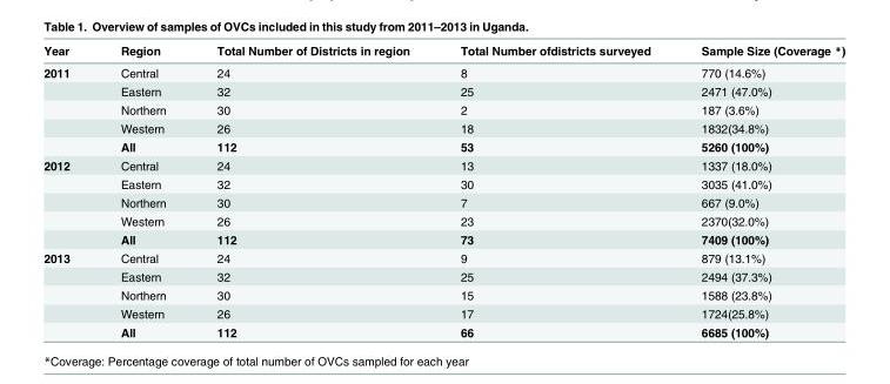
<table><thead><tr><td>Year</td><td>Region</td><td>Total Number of Districts in region</td><td>Total Number ofdistricts surveyed</td><td>Sample Size (Coverage *)</td></tr></thead><tbody><tr><td rowspan="5">2011</td><td>Central</td><td>24</td><td>8</td><td>770 (14.6%)</td></tr><tr><td>Eastern</td><td>32</td><td>25</td><td>2471 (47.0%)</td></tr><tr><td>Northern</td><td>30</td><td>2</td><td>187 (3.6%)</td></tr><tr><td>Western</td><td>26</td><td>18</td><td>1832(34.8%)</td></tr><tr><td>All</td><td>112</td><td>53</td><td>5260 (100%)</td></tr><tr><td rowspan="5">2012</td><td>Central</td><td>24</td><td>13</td><td>1337 (18.0%)</td></tr><tr><td>Eastern</td><td>32</td><td>30</td><td>3035 (41.0%)</td></tr><tr><td>Northern</td><td>30</td><td>7</td><td>667 (9.0%)</td></tr><tr><td>Western</td><td>26</td><td>23</td><td>2370(32.0%)</td></tr><tr><td>All</td><td>112</td><td>73</td><td>7409 (100%)</td></tr><tr><td rowspan="5">2013</td><td>Central</td><td>24</td><td>9</td><td>879 (13.1%)</td></tr><tr><td>Eastern</td><td>32</td><td>25</td><td>2494 (37.3%)</td></tr><tr><td>Northern</td><td>30</td><td>15</td><td>1588 (23.8%)</td></tr><tr><td>Western</td><td>26</td><td>17</td><td>1724(25.8%)</td></tr><tr><td>All</td><td>112</td><td>66</td><td>6685 (100%)</td></tr></tbody></table>